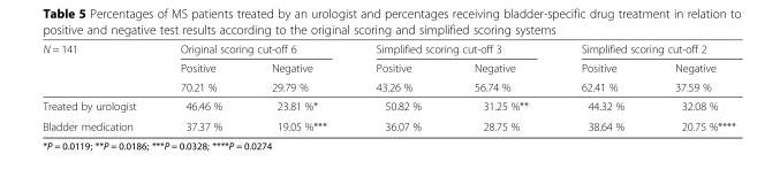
<table><thead><tr><td rowspan="3">N = 141</td><td colspan="2">Original scoring cut-off 6</td><td colspan="2">Simplified scoring cut-off 3</td><td colspan="2">Simplified scoring cut-off 2</td></tr><tr><td rowspan="2">Positive 70.21 %</td><td rowspan="2">Negative 29.79 %</td><td rowspan="2">Positive 43.26 %</td><td rowspan="2">Negative 56.74 %</td><td rowspan="2">Positive 62.41 %</td><td rowspan="2">Negative 37.59 %</td></tr><tr></tr></thead><tbody><tr><td>Treated by urologist</td><td>46.46 %</td><td>23.81 %*</td><td>50.82 %</td><td>31.25 %**</td><td>44.32 %</td><td>32.08 %</td></tr><tr><td>Bladder medication</td><td>37.37 %</td><td>19.05 %***</td><td>36.07 %</td><td>28.75 %</td><td>38.64 %</td><td>20.75 %****</td></tr></tbody></table>